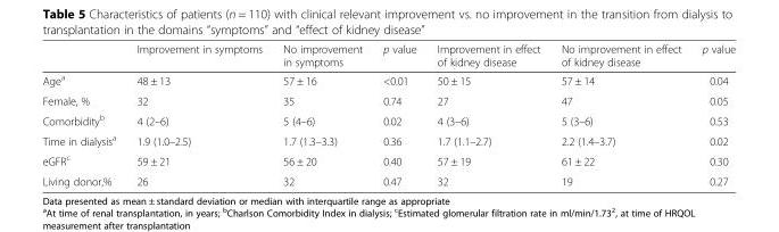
<table><thead><tr><td></td><td>Improvement in symptoms</td><td>No improvement in symptoms</td><td>p value</td><td>Improvement in effect of kidney disease</td><td>No improvement in effect of kidney disease</td><td>p value</td></tr></thead><tbody><tr><td>Age<sup>a</sup></td><td>48 ± 13</td><td>57 ± 16</td><td>&lt;0.01</td><td>50 ± 15</td><td>57 ± 14</td><td>0.04</td></tr><tr><td>Female, %</td><td>32</td><td>35</td><td>0.74</td><td>27</td><td>47</td><td>0.05</td></tr><tr><td>Comorbidity<sup>b</sup></td><td>4 (2–6)</td><td>5 (4–6)</td><td>0.02</td><td>4 (3–6)</td><td>5 (3–6)</td><td>0.53</td></tr><tr><td>Time in dialysis<sup>a</sup></td><td>1.9 (1.0–2.5)</td><td>1.7 (1.3–3.3)</td><td>0.36</td><td>1.7 (1.1–2.7)</td><td>2.2 (1.4–3.7)</td><td>0.02</td></tr><tr><td>eGFR<sup>c</sup></td><td>59 ± 21</td><td>56 ± 20</td><td>0.40</td><td>57 ± 19</td><td>61 ± 22</td><td>0.30</td></tr><tr><td>Living donor,%</td><td>26</td><td>32</td><td>0.47</td><td>32</td><td>19</td><td>0.27</td></tr></tbody></table>